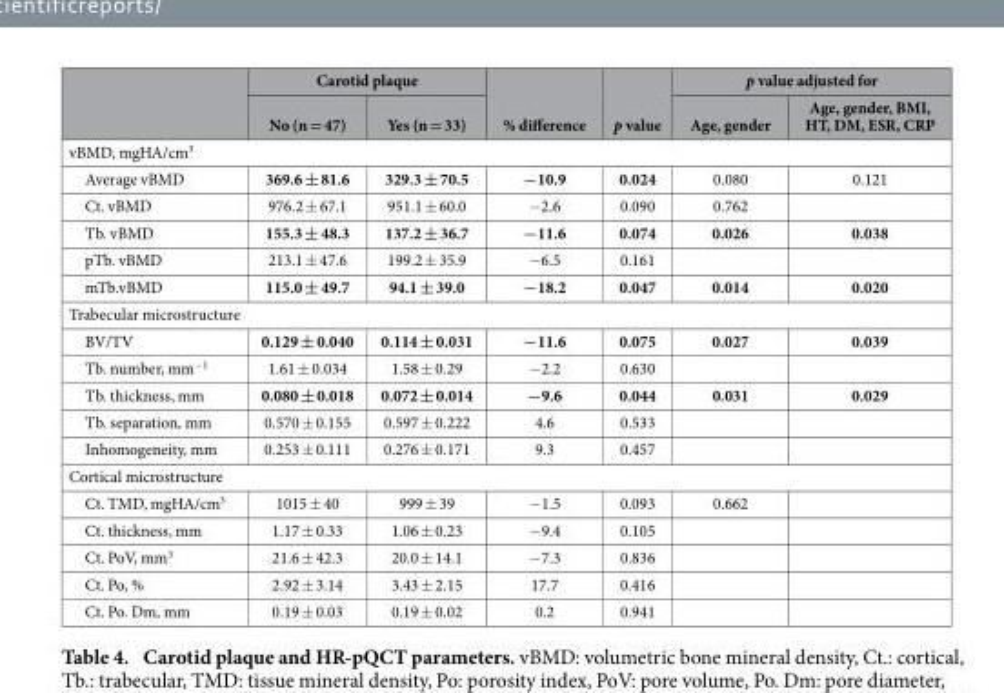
<table><thead><tr><td rowspan="2"></td><td colspan="2">Carotid plaque</td><td rowspan="2">% difference</td><td rowspan="2">p value</td><td colspan="2">p value adjusted for</td></tr><tr><td>No (n = 47)</td><td>Yes (n = 33)</td><td>Age, gender</td><td>Age, gender, BMI, HT, DM, ESR, CRP</td></tr></thead><tbody><tr><td colspan="7">vBMD, mgHA/cm<sup>3</sup></td></tr><tr><td>Average vBMD</td><td>369.6 ± 81.6</td><td>329.3 ± 70.5</td><td>−10.9</td><td>0.024</td><td>0.080</td><td>0.121</td></tr><tr><td>Ct. vBMD</td><td>976.2 ± 67.1</td><td>951.1 ± 60.0</td><td>− 2.6</td><td>0.090</td><td>0.762</td><td></td></tr><tr><td>Tb. vBMD</td><td>155.3 ± 48.3</td><td>137.2 ± 36.7</td><td>−11.6</td><td>0.074</td><td>0.026</td><td>0.038</td></tr><tr><td>pTb. vBMD</td><td>213.1 ± 47.6</td><td>199.2 ± 35.9</td><td>− 6.5</td><td>0.161</td><td></td><td></td></tr><tr><td>mTb.vBMD</td><td>115.0 ± 49.7</td><td>94.1 ± 39.0</td><td>−18.2</td><td>0.047</td><td>0.014</td><td>0.020</td></tr><tr><td colspan="7">Trabecular microstructure</td></tr><tr><td>BV/TV</td><td>0.129 ± 0.040</td><td>0.114 ± 0.031</td><td>−11.6</td><td>0.075</td><td>0.027</td><td>0.039</td></tr><tr><td>Tb. number, mm<sup>−1</sup></td><td>1.61 ± 0.034</td><td>1.58 ± 0.29</td><td>− 2.2</td><td>0.630</td><td></td><td></td></tr><tr><td>Tb. thickness, mm</td><td>0.080 ± 0.018</td><td>0.072 ± 0.014</td><td>−9.6</td><td>0.044</td><td>0.031</td><td>0.029</td></tr><tr><td>Tb. separation, mm</td><td>0.570 ± 0.155</td><td>0.597 ± 0.222</td><td>4.6</td><td>0.533</td><td></td><td></td></tr><tr><td>Inhomogeneity, mm</td><td>0.253 ± 0.111</td><td>0.276 ± 0.171</td><td>9.3</td><td>0.457</td><td></td><td></td></tr><tr><td colspan="7">Cortical microstructure</td></tr><tr><td>Ct. TMD, mgHA/cm<sup>3</sup></td><td>1015 ± 40</td><td>999 ± 39</td><td>− 1.5</td><td>0.093</td><td>0.662</td><td></td></tr><tr><td>Ct. thickness, mm</td><td>1.17 ± 0.33</td><td>1.06 ± 0.23</td><td>− 9.4</td><td>0.105</td><td></td><td></td></tr><tr><td>Ct. PoV, mm<sup>3</sup></td><td>21.6 ± 42.3</td><td>20.0 ± 14.1</td><td>− 7.3</td><td>0.836</td><td></td><td></td></tr><tr><td>Ct. Po, %</td><td>2.92 ± 3.14</td><td>3.43 ± 2.15</td><td>17.7</td><td>0.416</td><td></td><td></td></tr><tr><td>Ct. Po. Dm, mm</td><td>0.19 ± 0.03</td><td>0.19 ± 0.02</td><td>0.2</td><td>0.941</td><td></td><td></td></tr></tbody></table>